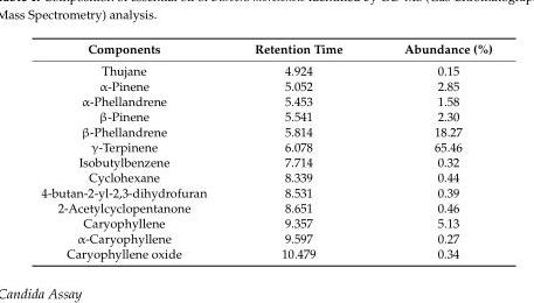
<table><thead><tr><td>Components</td><td>Retention Time</td><td>Abundance (%)</td></tr></thead><tbody><tr><td>Thujane</td><td>4.924</td><td>0.15</td></tr><tr><td>α-Pinene</td><td>5.052</td><td>2.85</td></tr><tr><td>α-Phellandrene</td><td>5.453</td><td>1.58</td></tr><tr><td>β-Pinene</td><td>5.541</td><td>2.30</td></tr><tr><td>β-Phellandrene</td><td>5.814</td><td>18.27</td></tr><tr><td>γ-Terpinene</td><td>6.078</td><td>65.46</td></tr><tr><td>Isobutylbenzene</td><td>7.714</td><td>0.32</td></tr><tr><td>Cyclohexane</td><td>8.339</td><td>0.44</td></tr><tr><td>4-butan-2-yl-2,3-dihydrofuran</td><td>8.531</td><td>0.39</td></tr><tr><td>2-Acetylcyclopentanone</td><td>8.651</td><td>0.46</td></tr><tr><td>Caryophyllene</td><td>9.357</td><td>5.13</td></tr><tr><td>α-Caryophyllene</td><td>9.597</td><td>0.27</td></tr><tr><td>Caryophyllene oxide</td><td>10.479</td><td>0.34</td></tr></tbody></table>